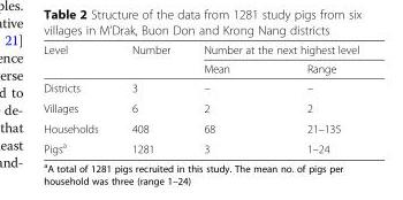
<table><thead><tr><td rowspan="2">Level</td><td rowspan="2">Number</td><td colspan="2">Number at the next highest level</td></tr><tr><td>Mean</td><td>Range</td></tr></thead><tbody><tr><td>Districts</td><td>3</td><td>–</td><td>–</td></tr><tr><td>Villages</td><td>6</td><td>2</td><td>2</td></tr><tr><td>Households</td><td>408</td><td>68</td><td>21–135</td></tr><tr><td>Pigs<sup>a</sup></td><td>1281</td><td>3</td><td>1–24</td></tr></tbody></table>